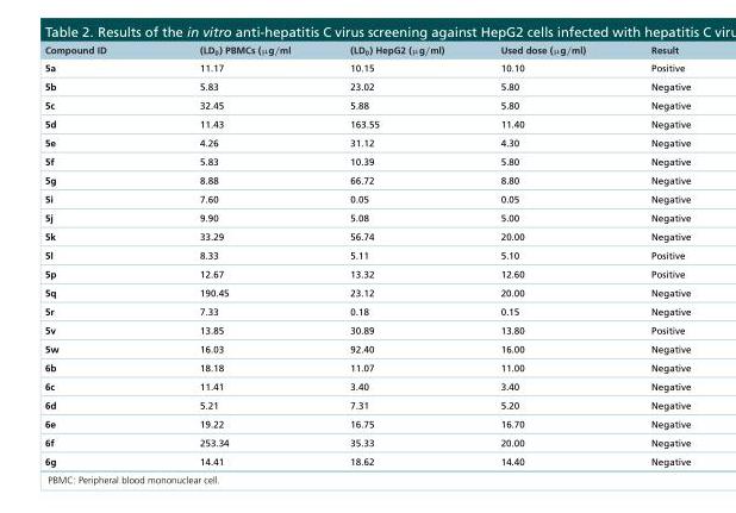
<table><thead><tr><td>Compound ID</td><td>(LD<sub>0</sub>) PBMCs (μg/ml</td><td>(LD<sub>0</sub>) HepG2 (μg/ml)</td><td>Used dose (μg/ml)</td><td>Result</td></tr></thead><tbody><tr><td>5a</td><td>11.17</td><td>10.15</td><td>10.10</td><td>Positive</td></tr><tr><td>5b</td><td>5.83</td><td>23.02</td><td>5.80</td><td>Negative</td></tr><tr><td>5c</td><td>32.45</td><td>5.88</td><td>5.80</td><td>Negative</td></tr><tr><td>5d</td><td>11.43</td><td>163.55</td><td>11.40</td><td>Negative</td></tr><tr><td>5e</td><td>4.26</td><td>31.12</td><td>4.30</td><td>Negative</td></tr><tr><td>5f</td><td>5.83</td><td>10.39</td><td>5.80</td><td>Negative</td></tr><tr><td>5g</td><td>8.88</td><td>66.72</td><td>8.80</td><td>Negative</td></tr><tr><td>5i</td><td>7.60</td><td>0.05</td><td>0.05</td><td>Negative</td></tr><tr><td>5j</td><td>9.90</td><td>5.08</td><td>5.00</td><td>Negative</td></tr><tr><td>5k</td><td>33.29</td><td>56.74</td><td>20.00</td><td>Negative</td></tr><tr><td>5l</td><td>8.33</td><td>5.11</td><td>5.10</td><td>Positive</td></tr><tr><td>5p</td><td>12.67</td><td>13.32</td><td>12.60</td><td>Positive</td></tr><tr><td>5q</td><td>190.45</td><td>23.12</td><td>20.00</td><td>Negative</td></tr><tr><td>5r</td><td>7.33</td><td>0.18</td><td>0.15</td><td>Negative</td></tr><tr><td>5v</td><td>13.85</td><td>30.89</td><td>13.80</td><td>Positive</td></tr><tr><td>5w</td><td>16.03</td><td>92.40</td><td>16.00</td><td>Negative</td></tr><tr><td>6b</td><td>18.18</td><td>11.07</td><td>11.00</td><td>Negative</td></tr><tr><td>6c</td><td>11.41</td><td>3.40</td><td>3.40</td><td>Negative</td></tr><tr><td>6d</td><td>5.21</td><td>7.31</td><td>5.20</td><td>Negative</td></tr><tr><td>6e</td><td>19.22</td><td>16.75</td><td>16.70</td><td>Negative</td></tr><tr><td>6f</td><td>253.34</td><td>35.33</td><td>20.00</td><td>Negative</td></tr><tr><td>6g</td><td>14.41</td><td>18.62</td><td>14.40</td><td>Negative</td></tr></tbody></table>